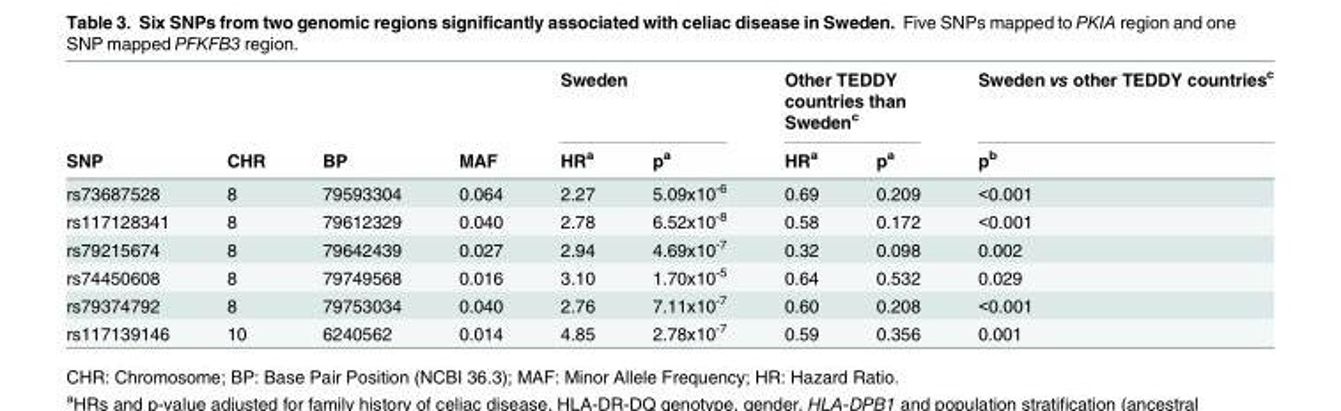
<table><thead><tr><td rowspan="2">SNP</td><td rowspan="2">CHR</td><td rowspan="2">BP</td><td rowspan="2">MAF</td><td colspan="2">Sweden</td><td colspan="2">Other TEDDY countries than Sweden<sup>c</sup></td><td rowspan="2">Sweden vs other TEDDY countries<sup>c</sup> p<sup>b</sup></td></tr><tr><td>HR<sup>a</sup></td><td>p<sup>a</sup></td><td>HR<sup>a</sup></td><td>p<sup>a</sup></td></tr></thead><tbody><tr><td>rs73687528</td><td>8</td><td>79593304</td><td>0.064</td><td>2.27</td><td>5.09x10<sup>-6</sup></td><td>0.69</td><td>0.209</td><td>&lt;0.001</td></tr><tr><td>rs117128341</td><td>8</td><td>79612329</td><td>0.040</td><td>2.78</td><td>6.52x10<sup>-8</sup></td><td>0.58</td><td>0.172</td><td>&lt;0.001</td></tr><tr><td>rs79215674</td><td>8</td><td>79642439</td><td>0.027</td><td>2.94</td><td>4.69x10<sup>-7</sup></td><td>0.32</td><td>0.098</td><td>0.002</td></tr><tr><td>rs74450608</td><td>8</td><td>79749568</td><td>0.016</td><td>3.10</td><td>1.70x10<sup>-5</sup></td><td>0.64</td><td>0.532</td><td>0.029</td></tr><tr><td>rs79374792</td><td>8</td><td>79753034</td><td>0.040</td><td>2.76</td><td>7.11x10<sup>-7</sup></td><td>0.60</td><td>0.208</td><td>&lt;0.001</td></tr><tr><td>rs117139146</td><td>10</td><td>6240562</td><td>0.014</td><td>4.85</td><td>2.78x10<sup>-7</sup></td><td>0.59</td><td>0.356</td><td>0.001</td></tr></tbody></table>